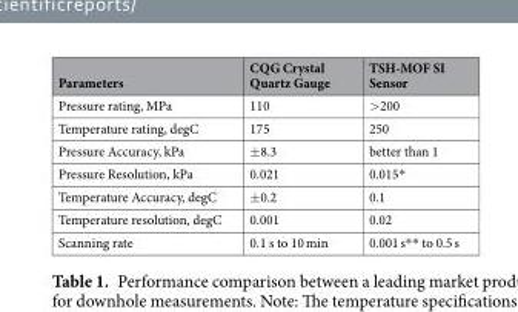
<table><thead><tr><td>Parameters</td><td>CQG Crystal Quartz Gauge</td><td>TSH-MOF SI Sensor</td></tr></thead><tbody><tr><td>Pressure rating, MPa</td><td>110</td><td>&gt;200</td></tr><tr><td>Temperature rating, degC</td><td>175</td><td>250</td></tr><tr><td>Pressure Accuracy, kPa</td><td>±8.3</td><td>better than 1</td></tr><tr><td>Pressure Resolution, kPa</td><td>0.021</td><td>0.015*</td></tr><tr><td>Temperature Accuracy, degC</td><td>±0.2</td><td>0.1</td></tr><tr><td>Temperature resolution, degC</td><td>0.001</td><td>0.02</td></tr><tr><td>Scanning rate</td><td>0.1 s to 10 min</td><td>0.001 s** to 0.5 s</td></tr></tbody></table>